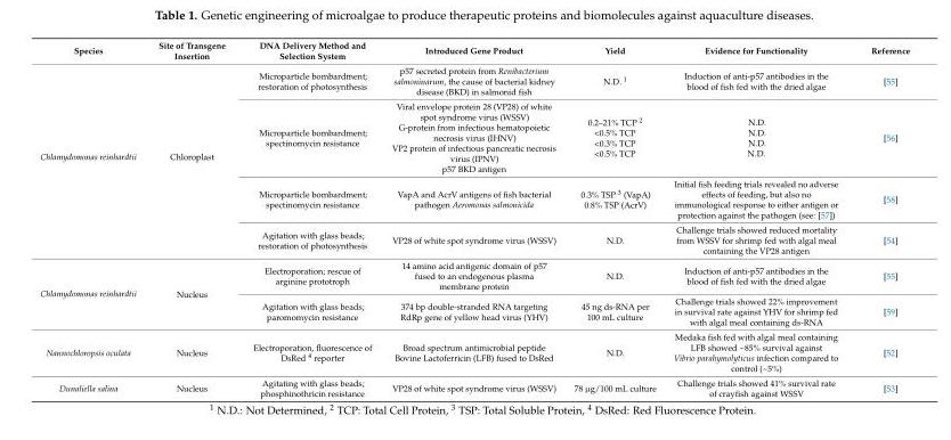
<table><thead><tr><td>Species</td><td>Site of Transgene Insertion</td><td>DNA Delivery Method and Selection System</td><td>Introduced Gene Product</td><td>Yield</td><td>Evidence for Functionality</td><td>Reference</td></tr></thead><tbody><tr><td rowspan="4">Chlamydomonas reinhardtii</td><td rowspan="4">Chloroplast</td><td>Microparticle bombardment; restoration of photosynthesis</td><td>p57 secreted protein from Renibacterium salmoninarum, the cause of bacterial kidney disease (BKD) in salmonid fish</td><td>N.D. <sup>1</sup></td><td>Induction of anti-p57 antibodies in the blood of fish fed with the dried algae</td><td>[55]</td></tr><tr><td>Microparticle bombardment; spectinomycin resistance</td><td>Viral envelope protein 28 (VP28) of white spot syndrome virus (WSSV) G-protein from infectious hematopoietic necrosis virus (IHNV) VP2 protein of infectious pancreatic necrosis virus (IPNV) p57 BKD antigen</td><td>0.2–21% TCP <sup>2</sup> &lt;0.5% TCP &lt;0.3% TCP &lt;0.5% TCP</td><td>N.D. N.D. N.D. N.D.</td><td>[56]</td></tr><tr><td>Microparticle bombardment; spectinomycin resistance</td><td>VapA and AcrV antigens of fish bacterial pathogen Aeromonas salmonicida</td><td>0.3% TSP <sup>3</sup> (VapA) 0.8% TSP (AcrV)</td><td>Initial fish feeding trials revealed no adverse effects of feeding, but also no immunological response to either antigen or protection against the pathogen (see: [57])</td><td>[58]</td></tr><tr><td>Agitation with glass beads; restoration of photosynthesis</td><td>VP28 of white spot syndrome virus (WSSV)</td><td>N.D.</td><td>Challenge trials showed reduced mortality from WSSV for shrimp fed with algal meal containing the VP28 antigen</td><td>[54]</td></tr><tr><td rowspan="2">Chlamydomonas reinhardtii</td><td rowspan="2">Nucleus</td><td>Electroporation; rescue of arginine prototroph</td><td>14 amino acid antigenic domain of p57 fused to an endogenous plasma membrane protein</td><td>N.D.</td><td>Induction of anti-p57 antibodies in the blood of fish fed with the dried algae</td><td>[55]</td></tr><tr><td>Agitation with glass beads; paromomycin resistance</td><td>374 bp double-stranded RNA targeting RdRp gene of yellow head virus (YHV)</td><td>45 ng ds-RNA per 100 mL culture</td><td>Challenge trials showed 22% improvement in survival rate against YHV for shrimp fed with algal meal containing ds-RNA</td><td>[59]</td></tr><tr><td>Nannochloropsis oculata</td><td>Nucleus</td><td>Electroporation, fluorescence of DsRed <sup>4</sup> reporter</td><td>Broad spectrum antimicrobial peptide Bovine Lactoferricin (LFB) fused to DsRed</td><td>N.D.</td><td>Medaka fish fed with algal meal containing LFB showed ~85% survival against Vibrio parahymolyticus infection compared to control (~5%)</td><td>[52]</td></tr><tr><td>Dunaliella salina</td><td>Nucleus</td><td>Agitating with glass beads; phosphinothricin resistance</td><td>VP28 of white spot syndrome virus (WSSV)</td><td>78 µg/100 mL culture</td><td>Challenge trials showed 41% survival rate of crayfish against WSSV</td><td>[53]</td></tr></tbody></table>